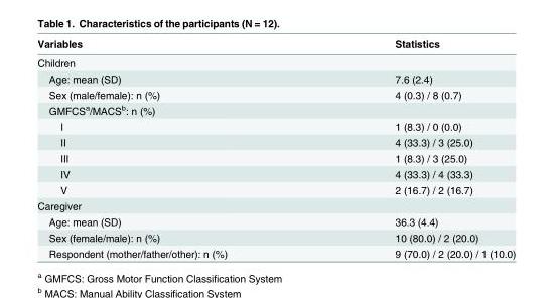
<table><thead><tr><td>Variables</td><td>Statistics</td></tr></thead><tbody><tr><td colspan="2">Children</td></tr><tr><td>Age: mean (SD)</td><td>7.6 (2.4)</td></tr><tr><td>Sex (male/female): n (%)</td><td>4 (0.3) / 8 (0.7)</td></tr><tr><td colspan="2">GMFCS<sup>a</sup>/MACS<sup>b</sup>: n (%)</td></tr><tr><td>I</td><td>1 (8.3) / 0 (0.0)</td></tr><tr><td>II</td><td>4 (33.3) / 3 (25.0)</td></tr><tr><td>III</td><td>1 (8.3) / 3 (25.0)</td></tr><tr><td>IV</td><td>4 (33.3) / 4 (33.3)</td></tr><tr><td>V</td><td>2 (16.7) / 2 (16.7)</td></tr><tr><td colspan="2">Caregiver</td></tr><tr><td>Age: mean (SD)</td><td>36.3 (4.4)</td></tr><tr><td>Sex (female/male): n (%)</td><td>10 (80.0) / 2 (20.0)</td></tr><tr><td>Respondent (mother/father/other): n (%)</td><td>9 (70.0) / 2 (20.0) / 1 (10.0)</td></tr></tbody></table>